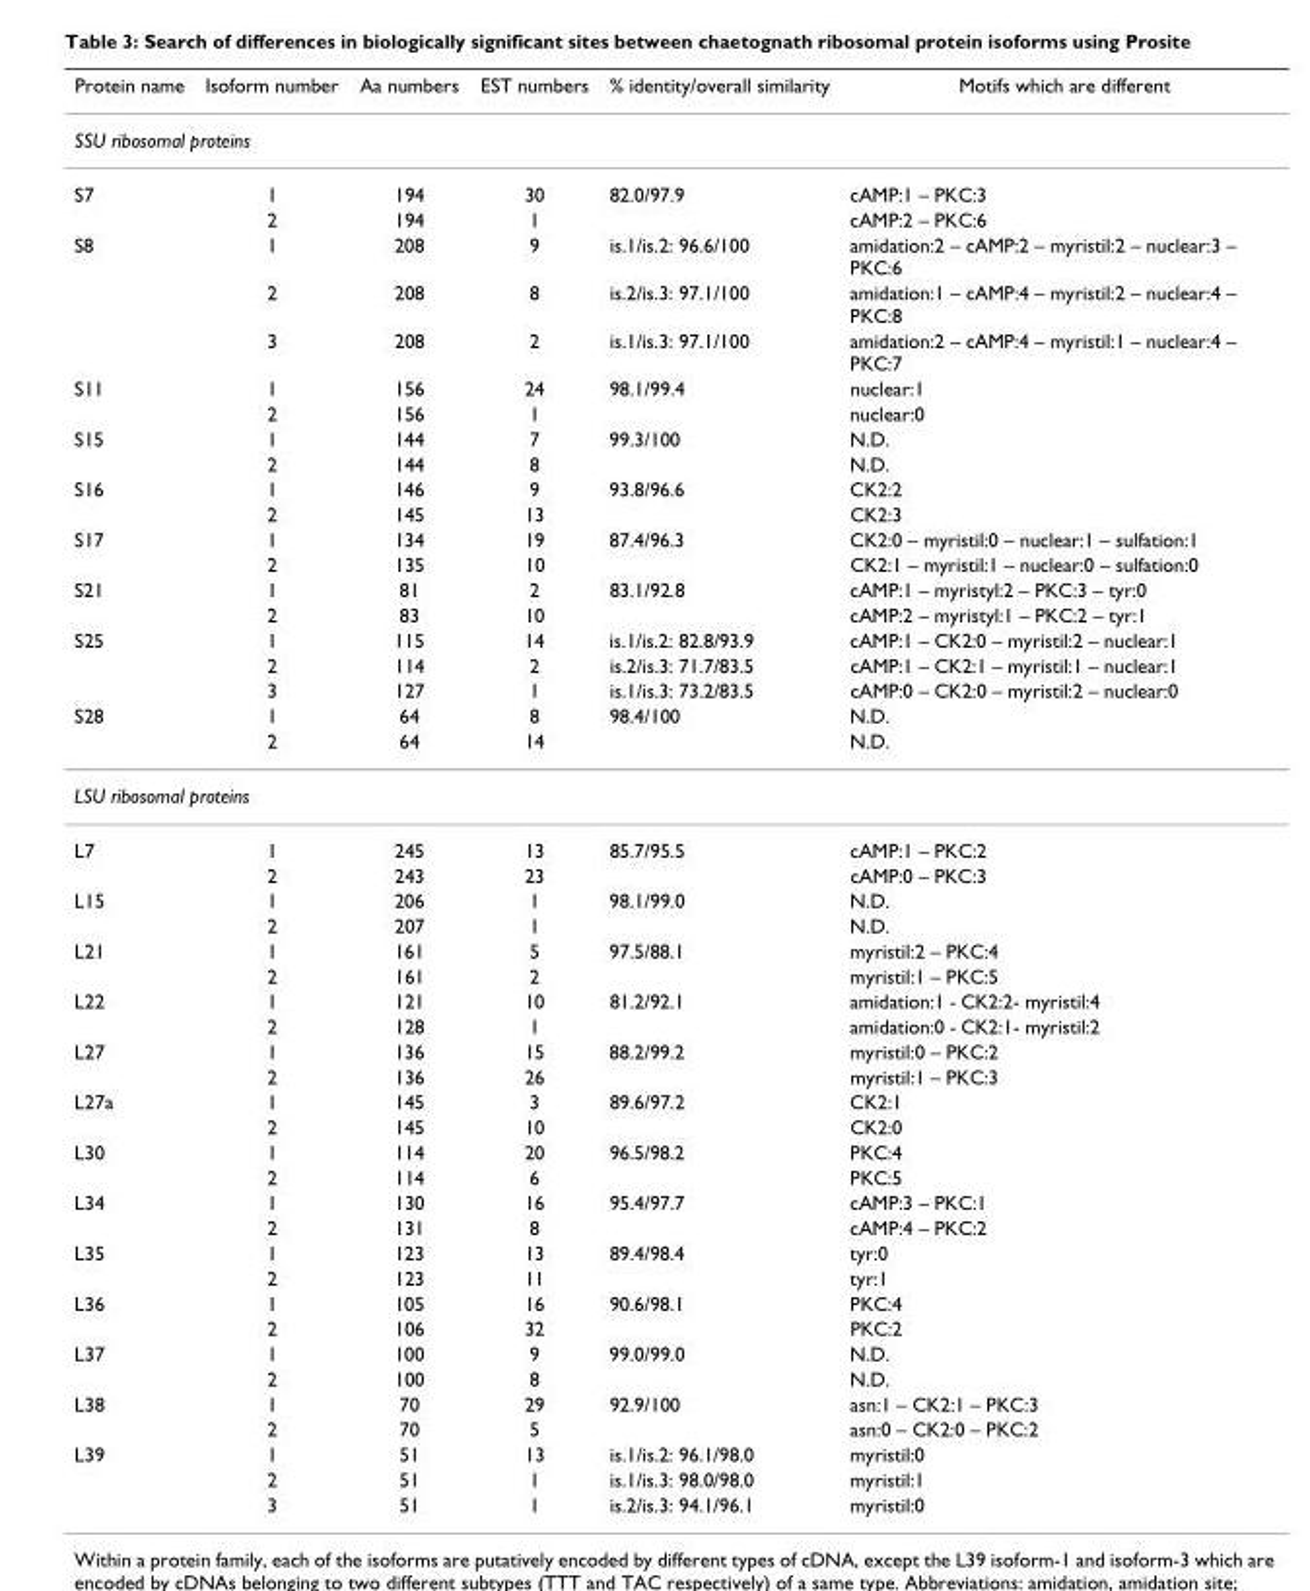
<table><thead><tr><td>Protein name</td><td>Isoform number</td><td>Aa numbers</td><td>EST numbers</td><td>% identity/overall similarity</td><td>Motifs which are different</td></tr></thead><tbody><tr><td colspan="6">SSU ribosomal proteins</td></tr><tr><td rowspan="2">S7</td><td>1</td><td>194</td><td>30</td><td>82.0/97.9</td><td>cAMP:1 – PKC:3</td></tr><tr><td>2</td><td>194</td><td>1</td><td></td><td>cAMP:2 – PKC:6</td></tr><tr><td rowspan="3">S8</td><td>1</td><td>208</td><td>9</td><td>is.1/is.2: 96.6/100</td><td>amidation:2 – cAMP:2 – myristil:2 – nuclear:3 – PKC:6</td></tr><tr><td>2</td><td>208</td><td>8</td><td>is.2/is.3: 97.1/100</td><td>amidation:1 – cAMP:4 – myristil:2 – nuclear:4 – PKC:8</td></tr><tr><td>3</td><td>208</td><td>2</td><td>is.1/is.3: 97.1/100</td><td>amidation:2 – cAMP:4 – myristil:1 – nuclear:4 – PKC:7</td></tr><tr><td rowspan="2">S11</td><td>1</td><td>156</td><td>24</td><td>98.1/99.4</td><td>nuclear:1</td></tr><tr><td>2</td><td>156</td><td>1</td><td></td><td>nuclear:0</td></tr><tr><td rowspan="2">S15</td><td>1</td><td>144</td><td>7</td><td>99.3/100</td><td>N.D.</td></tr><tr><td>2</td><td>144</td><td>8</td><td></td><td>N.D.</td></tr><tr><td rowspan="2">S16</td><td>1</td><td>146</td><td>9</td><td>93.8/96.6</td><td>CK2:2</td></tr><tr><td>2</td><td>145</td><td>13</td><td></td><td>CK2:3</td></tr><tr><td rowspan="2">S17</td><td>1</td><td>134</td><td>19</td><td>87.4/96.3</td><td>CK2:0 – myristil:0 – nuclear:1 – sulfation:1</td></tr><tr><td>2</td><td>135</td><td>10</td><td></td><td>CK2:1 – myristil:1 – nuclear:0 – sulfation:0</td></tr><tr><td rowspan="2">S21</td><td>1</td><td>81</td><td>2</td><td>83.1/92.8</td><td>cAMP:1 – myristyl:2 – PKC:3 – tyr:0</td></tr><tr><td>2</td><td>83</td><td>10</td><td></td><td>cAMP:2 – myristyl:1 – PKC:2 – tyr:1</td></tr><tr><td rowspan="3">S25</td><td>1</td><td>115</td><td>14</td><td>is.1/is.2: 82.8/93.9</td><td>cAMP:1 – CK2:0 – myristil:2 – nuclear:1</td></tr><tr><td>2</td><td>114</td><td>2</td><td>is.2/is.3: 71.7/83.5</td><td>cAMP:1 – CK2:1 – myristil:1 – nuclear:1</td></tr><tr><td>3</td><td>127</td><td>1</td><td>is.1/is.3: 73.2/83.5</td><td>cAMP:0 – CK2:0 – myristil:2 – nuclear:0</td></tr><tr><td rowspan="2">S28</td><td>1</td><td>64</td><td>8</td><td>98.4/100</td><td>N.D.</td></tr><tr><td>2</td><td>64</td><td>14</td><td></td><td>N.D.</td></tr><tr><td colspan="6">LSU ribosomal proteins</td></tr><tr><td rowspan="2">L7</td><td>1</td><td>245</td><td>13</td><td>85.7/95.5</td><td>cAMP:1 – PKC:2</td></tr><tr><td>2</td><td>243</td><td>23</td><td></td><td>cAMP:0 – PKC:3</td></tr><tr><td rowspan="2">L15</td><td>1</td><td>206</td><td>1</td><td>98.1/99.0</td><td>N.D.</td></tr><tr><td>2</td><td>207</td><td>1</td><td></td><td>N.D.</td></tr><tr><td rowspan="2">L21</td><td>1</td><td>161</td><td>5</td><td>97.5/88.1</td><td>myristil:2 – PKC:4</td></tr><tr><td>2</td><td>161</td><td>2</td><td></td><td>myristil:1 – PKC:5</td></tr><tr><td rowspan="2">L22</td><td>1</td><td>121</td><td>10</td><td>81.2/92.1</td><td>amidation:1 - CK2:2- myristil:4</td></tr><tr><td>2</td><td>128</td><td>1</td><td></td><td>amidation:0 - CK2:1- myristil:2</td></tr><tr><td rowspan="2">L27</td><td>1</td><td>136</td><td>15</td><td>88.2/99.2</td><td>myristil:0 – PKC:2</td></tr><tr><td>2</td><td>136</td><td>26</td><td></td><td>myristil:1 – PKC:3</td></tr><tr><td rowspan="2">L27a</td><td>1</td><td>145</td><td>3</td><td>89.6/97.2</td><td>CK2:1</td></tr><tr><td>2</td><td>145</td><td>10</td><td></td><td>CK2:0</td></tr><tr><td rowspan="2">L30</td><td>1</td><td>114</td><td>20</td><td>96.5/98.2</td><td>PKC:4</td></tr><tr><td>2</td><td>114</td><td>6</td><td></td><td>PKC:5</td></tr><tr><td rowspan="2">L34</td><td>1</td><td>130</td><td>16</td><td>95.4/97.7</td><td>cAMP:3 – PKC:1</td></tr><tr><td>2</td><td>131</td><td>8</td><td></td><td>cAMP:4 – PKC:2</td></tr><tr><td rowspan="2">L35</td><td>1</td><td>123</td><td>13</td><td>89.4/98.4</td><td>tyr:0</td></tr><tr><td>2</td><td>123</td><td>11</td><td></td><td>tyr:1</td></tr><tr><td rowspan="2">L36</td><td>1</td><td>105</td><td>16</td><td>90.6/98.1</td><td>PKC:4</td></tr><tr><td>2</td><td>106</td><td>32</td><td></td><td>PKC:2</td></tr><tr><td rowspan="2">L37</td><td>1</td><td>100</td><td>9</td><td>99.0/99.0</td><td>N.D.</td></tr><tr><td>2</td><td>100</td><td>8</td><td></td><td>N.D.</td></tr><tr><td rowspan="2">L38</td><td>1</td><td>70</td><td>29</td><td>92.9/100</td><td>asn:1 – CK2:1 – PKC:3</td></tr><tr><td>2</td><td>70</td><td>5</td><td></td><td>asn:0 – CK2:0 – PKC:2</td></tr><tr><td rowspan="3">L39</td><td>1</td><td>51</td><td>13</td><td>is.1/is.2: 96.1/98.0</td><td>myristil:0</td></tr><tr><td>2</td><td>51</td><td>1</td><td>is.1/is.3: 98.0/98.0</td><td>myristil:1</td></tr><tr><td>3</td><td>51</td><td>1</td><td>is.2/is.3: 94.1/96.1</td><td>myristil:0</td></tr></tbody></table>